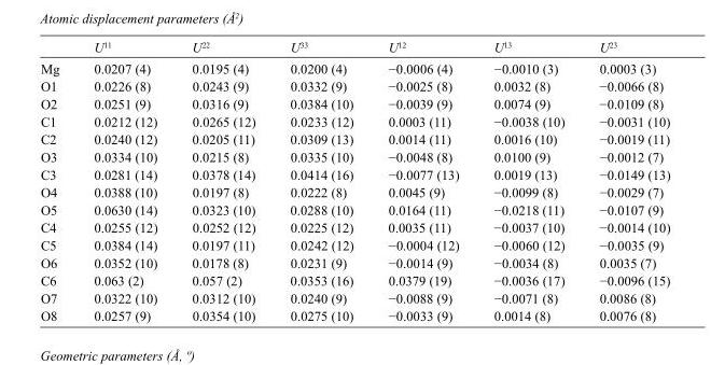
<table><thead><tr><td></td><td>U<sup>11</sup></td><td>U<sup>22</sup></td><td>U<sup>33</sup></td><td>U<sup>12</sup></td><td>U<sup>13</sup></td><td>U<sup>23</sup></td></tr></thead><tbody><tr><td>Mg</td><td>0.0207 (4)</td><td>0.0195 (4)</td><td>0.0200 (4)</td><td>−0.0006 (4)</td><td>−0.0010 (3)</td><td>0.0003 (3)</td></tr><tr><td>O1</td><td>0.0226 (8)</td><td>0.0243 (9)</td><td>0.0332 (9)</td><td>−0.0025 (8)</td><td>0.0032 (8)</td><td>−0.0066 (8)</td></tr><tr><td>O2</td><td>0.0251 (9)</td><td>0.0316 (9)</td><td>0.0384 (10)</td><td>−0.0039 (9)</td><td>0.0074 (9)</td><td>−0.0109 (8)</td></tr><tr><td>C1</td><td>0.0212 (12)</td><td>0.0265 (12)</td><td>0.0233 (12)</td><td>0.0003 (11)</td><td>−0.0038 (10)</td><td>−0.0031 (10)</td></tr><tr><td>C2</td><td>0.0240 (12)</td><td>0.0205 (11)</td><td>0.0309 (13)</td><td>0.0014 (11)</td><td>0.0016 (10)</td><td>−0.0019 (11)</td></tr><tr><td>O3</td><td>0.0334 (10)</td><td>0.0215 (8)</td><td>0.0335 (10)</td><td>−0.0048 (8)</td><td>0.0100 (9)</td><td>−0.0012 (7)</td></tr><tr><td>C3</td><td>0.0281 (14)</td><td>0.0378 (14)</td><td>0.0414 (16)</td><td>−0.0077 (13)</td><td>0.0019 (13)</td><td>−0.0149 (13)</td></tr><tr><td>O4</td><td>0.0388 (10)</td><td>0.0197 (8)</td><td>0.0222 (8)</td><td>0.0045 (9)</td><td>−0.0099 (8)</td><td>−0.0029 (7)</td></tr><tr><td>O5</td><td>0.0630 (14)</td><td>0.0323 (10)</td><td>0.0288 (10)</td><td>0.0164 (11)</td><td>−0.0218 (11)</td><td>−0.0107 (9)</td></tr><tr><td>C4</td><td>0.0255 (12)</td><td>0.0252 (12)</td><td>0.0225 (12)</td><td>0.0035 (11)</td><td>−0.0037 (10)</td><td>−0.0014 (10)</td></tr><tr><td>C5</td><td>0.0384 (14)</td><td>0.0197 (11)</td><td>0.0242 (12)</td><td>−0.0004 (12)</td><td>−0.0060 (12)</td><td>−0.0035 (9)</td></tr><tr><td>O6</td><td>0.0352 (10)</td><td>0.0178 (8)</td><td>0.0231 (9)</td><td>−0.0014 (9)</td><td>−0.0034 (8)</td><td>0.0035 (7)</td></tr><tr><td>C6</td><td>0.063 (2)</td><td>0.057 (2)</td><td>0.0353 (16)</td><td>0.0379 (19)</td><td>−0.0036 (17)</td><td>−0.0096 (15)</td></tr><tr><td>O7</td><td>0.0322 (10)</td><td>0.0312 (10)</td><td>0.0240 (9)</td><td>−0.0088 (9)</td><td>−0.0071 (8)</td><td>0.0086 (8)</td></tr><tr><td>O8</td><td>0.0257 (9)</td><td>0.0354 (10)</td><td>0.0275 (10)</td><td>−0.0033 (9)</td><td>0.0014 (8)</td><td>0.0076 (8)</td></tr></tbody></table>